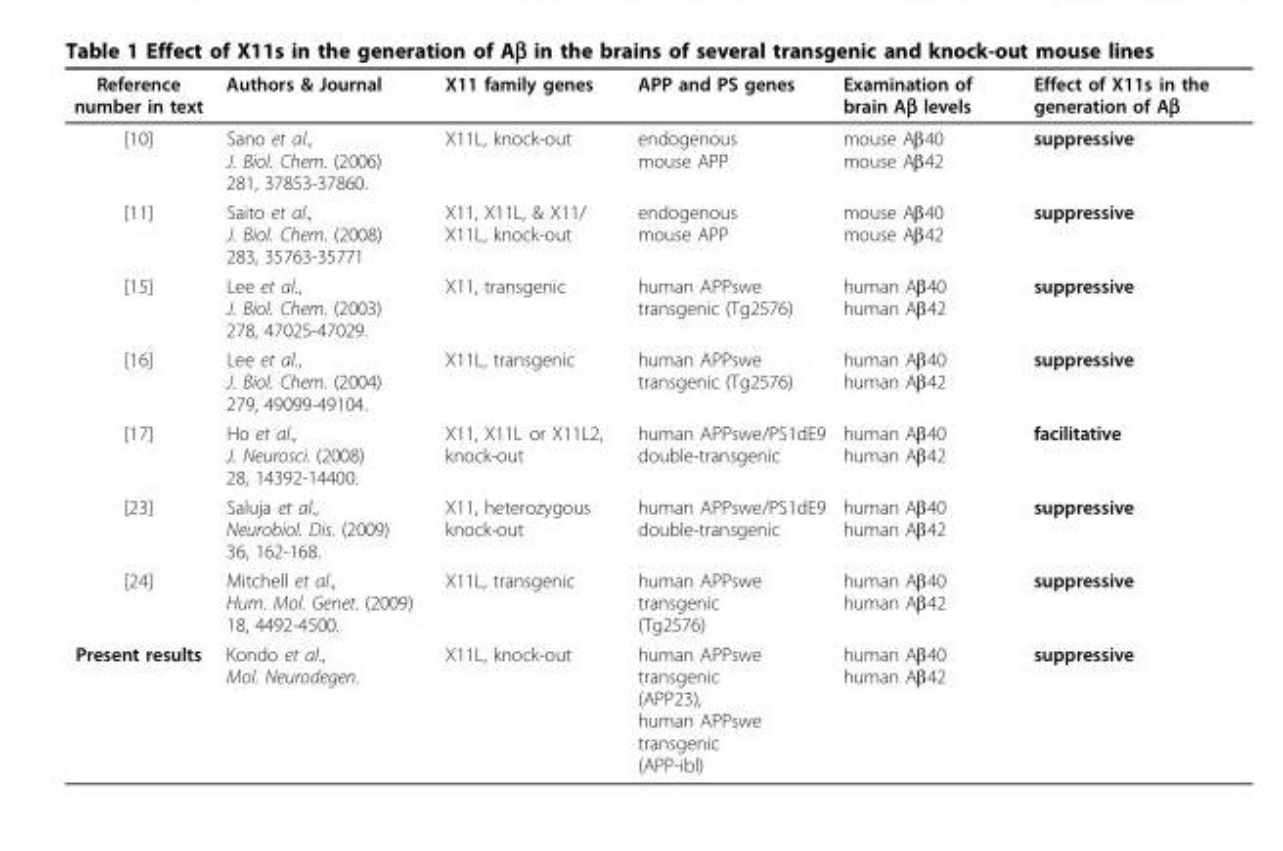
<table><thead><tr><td>Reference number in text</td><td>Authors &amp; Journal</td><td>X11 family genes</td><td>APP and PS genes</td><td>Examination of brain Aβ levels</td><td>Effect of X11s in the generation of Aβ</td></tr></thead><tbody><tr><td>[10]</td><td>Sano et al., J. Biol. Chem. (2006) 281, 37853-37860.</td><td>X11L, knock-out</td><td>endogenous mouse APP</td><td>mouse Aβ40 mouse Aβ42</td><td>suppressive</td></tr><tr><td>[11]</td><td>Saito et al., J. Biol. Chem. (2008) 283, 35763-35771</td><td>X11, X11L, &amp; X11/ X11L, knock-out</td><td>endogenous mouse APP</td><td>mouse Aβ40 mouse Aβ42</td><td>suppressive</td></tr><tr><td>[15]</td><td>Lee et al., J. Biol. Chem. (2003) 278, 47025-47029.</td><td>X11, transgenic</td><td>human APPswe transgenic (Tg2576)</td><td>human Aβ40 human Aβ42</td><td>suppressive</td></tr><tr><td>[16]</td><td>Lee et al., J. Biol. Chem. (2004) 279, 49099-49104.</td><td>X11L, transgenic</td><td>human APPswe transgenic (Tg2576)</td><td>human Aβ40 human Aβ42</td><td>suppressive</td></tr><tr><td>[17]</td><td>Ho et al., J. Neurosci. (2008) 28, 14392-14400.</td><td>X11, X11L or X11L2, knock-out</td><td>human APPswe/PS1dE9 double-transgenic</td><td>human Aβ40 human Aβ42</td><td>facilitative</td></tr><tr><td>[23]</td><td>Saluja et al., Neurobiol. Dis. (2009) 36, 162-168.</td><td>X11, heterozygous knock-out</td><td>human APPswe/PS1dE9 double-transgenic</td><td>human Aβ40 human Aβ42</td><td>suppressive</td></tr><tr><td>[24]</td><td>Mitchell et al., Hum. Mol. Genet. (2009) 18, 4492-4500.</td><td>X11L, transgenic</td><td>human APPswe transgenic (Tg2576)</td><td>human Aβ40 human Aβ42</td><td>suppressive</td></tr><tr><td>Present results</td><td>Kondo et al., Mol. Neurodegen.</td><td>X11L, knock-out</td><td>human APPswe transgenic (APP23), human APPswe transgenic (APP-ibl)</td><td>human Aβ40 human Aβ42</td><td>suppressive</td></tr></tbody></table>